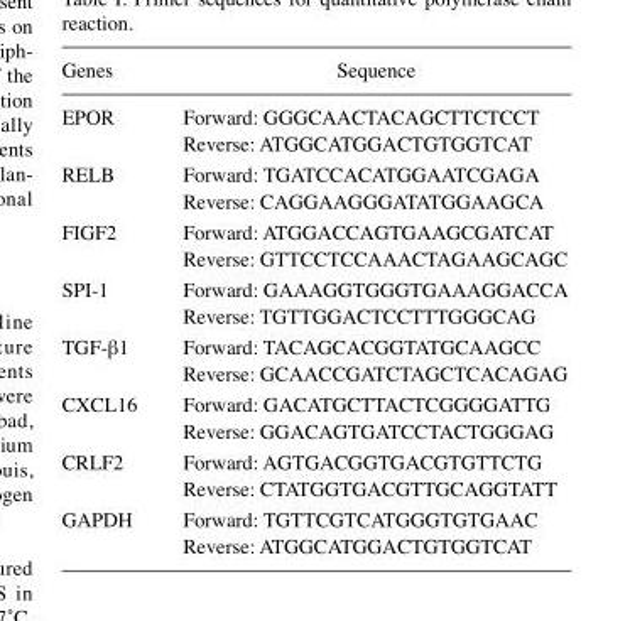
<table><thead><tr><td>Genes</td><td>Sequence</td></tr></thead><tbody><tr><td rowspan="2">EPOR</td><td>Forward: GGGCAACTACAGCTTCTCCT</td></tr><tr><td>Reverse: ATGGCATGGACTGTGGTCAT</td></tr><tr><td rowspan="2">RELB</td><td>Forward: TGATCCACATGGAATCGAGA</td></tr><tr><td>Reverse: CAGGAAGGGATATGGAAGCA</td></tr><tr><td rowspan="2">FIGF2</td><td>Forward: ATGGACCAGTGAAGCGATCAT</td></tr><tr><td>Reverse: GTTCCTCCAAACTAGAAGCAGC</td></tr><tr><td rowspan="2">SPI-1</td><td>Forward: GAAAGGTGGGTGAAAGGACCA</td></tr><tr><td>Reverse: TGTTGGACTCCTTTGGGCAG</td></tr><tr><td rowspan="2">TGF-β1</td><td>Forward: TACAGCACGGTATGCAAGCC</td></tr><tr><td>Reverse: GCAACCGATCTAGCTCACAGAG</td></tr><tr><td rowspan="2">CXCL16</td><td>Forward: GACATGCTTACTCGGGGATTG</td></tr><tr><td>Reverse: GGACAGTGATCCTACTGGGAG</td></tr><tr><td rowspan="2">CRLF2</td><td>Forward: AGTGACGGTGACGTGTTCTG</td></tr><tr><td>Reverse: CTATGGTGACGTTGCAGGTATT</td></tr><tr><td rowspan="2">GAPDH</td><td>Forward: TGTTCGTCATGGGTGTGAAC</td></tr><tr><td>Reverse: ATGGCATGGACTGTGGTCAT</td></tr></tbody></table>